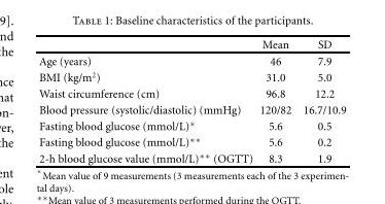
<table><thead><tr><td></td><td>Mean</td><td>SD</td></tr></thead><tbody><tr><td>Age (years)</td><td>46</td><td>7.9</td></tr><tr><td>BMI (kg/m<sup>2</sup>)</td><td>31.0</td><td>5.0</td></tr><tr><td>Waist circumference (cm)</td><td>96.8</td><td>12.2</td></tr><tr><td>Blood pressure (systolic/diastolic) (mmHg)</td><td>120/82</td><td>16.7/10.9</td></tr><tr><td>Fasting blood glucose (mmol/L)∗</td><td>5.6</td><td>0.5</td></tr><tr><td>Fasting blood glucose (mmol/L)∗∗</td><td>5.6</td><td>0.2</td></tr><tr><td>2-h blood glucose value (mmol/L)∗∗ (OGTT)</td><td>8.3</td><td>1.9</td></tr></tbody></table>